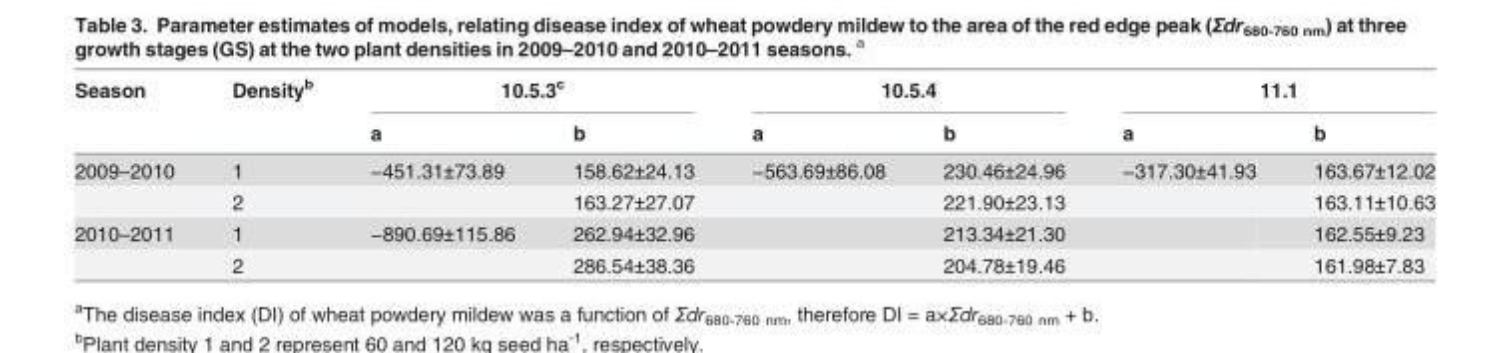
<table><thead><tr><td rowspan="2">Season</td><td rowspan="2">Density<sup>b</sup></td><td colspan="2">10.5.3<sup>c</sup></td><td colspan="2">10.5.4</td><td colspan="2">11.1</td></tr><tr><td>a</td><td>b</td><td>a</td><td>b</td><td>a</td><td>b</td></tr></thead><tbody><tr><td rowspan="2">2009–2010</td><td>1</td><td>−451.31±73.89</td><td>158.62±24.13</td><td>−563.69±86.08</td><td>230.46±24.96</td><td>−317.30±41.93</td><td>163.67±12.02</td></tr><tr><td>2</td><td></td><td>163.27±27.07</td><td></td><td>221.90±23.13</td><td></td><td>163.11±10.63</td></tr><tr><td rowspan="2">2010–2011</td><td>1</td><td>−890.69±115.86</td><td>262.94±32.96</td><td></td><td>213.34±21.30</td><td></td><td>162.55±9.23</td></tr><tr><td>2</td><td></td><td>286.54±38.36</td><td></td><td>204.78±19.46</td><td></td><td>161.98±7.83</td></tr></tbody></table>